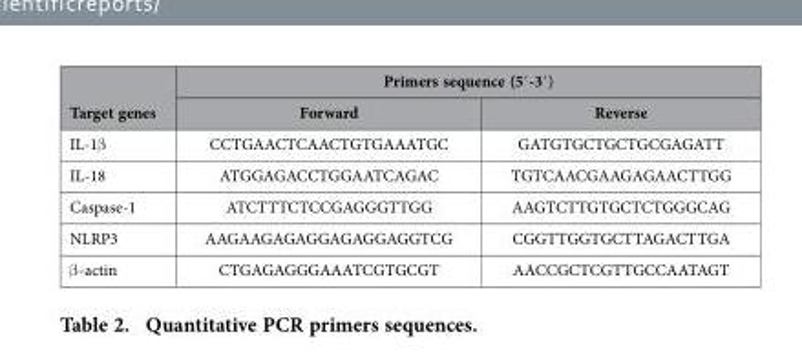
<table><thead><tr><td rowspan="2">Target genes</td><td colspan="2">Primers sequence (5′ -3′ )</td></tr><tr><td>Forward</td><td>Reverse</td></tr></thead><tbody><tr><td>IL-1β</td><td>CCTGAACTCAACTGTGAAATGC</td><td>GATGTGCTGCTGCGAGATT</td></tr><tr><td>IL-18</td><td>ATGGAGACCTGGAATCAGAC</td><td>TGTCAACGAAGAGAACTTGG</td></tr><tr><td>Caspase-1</td><td>ATCTTTCTCCGAGGGTTGG</td><td>AAGTCTTGTGCTCTGGGCAG</td></tr><tr><td>NLRP3</td><td>AAGAAGAGAGGAGAGGAGGTCG</td><td>CGGTTGGTGCTTAGACTTGA</td></tr><tr><td>β -actin</td><td>CTGAGAGGGAAATCGTGCGT</td><td>AACCGCTCGTTGCCAATAGT</td></tr></tbody></table>